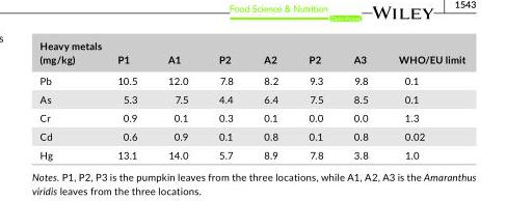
<table><thead><tr><td>Heavy metals (mg/kg)</td><td>P1</td><td>A1</td><td>P2</td><td>A2</td><td>P2</td><td>A3</td><td>WHO/EU limit</td></tr></thead><tbody><tr><td>Pb</td><td>10.5</td><td>12.0</td><td>7.8</td><td>8.2</td><td>9.3</td><td>9.8</td><td>0.1</td></tr><tr><td>As</td><td>5.3</td><td>7.5</td><td>4.4</td><td>6.4</td><td>7.5</td><td>8.5</td><td>0.1</td></tr><tr><td>Cr</td><td>0.9</td><td>0.1</td><td>0.3</td><td>0.1</td><td>0.0</td><td>0.0</td><td>1.3</td></tr><tr><td>Cd</td><td>0.6</td><td>0.9</td><td>0.1</td><td>0.8</td><td>0.1</td><td>0.8</td><td>0.02</td></tr><tr><td>Hg</td><td>13.1</td><td>14.0</td><td>5.7</td><td>8.9</td><td>7.8</td><td>3.8</td><td>1.0</td></tr></tbody></table>